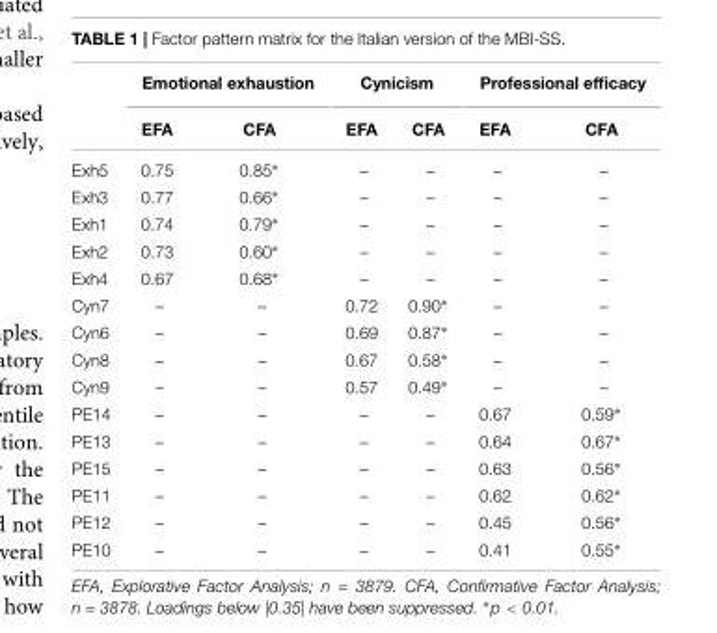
<table><thead><tr><td rowspan="2"></td><td colspan="2">Emotional exhaustion</td><td colspan="2">Cynicism</td><td colspan="2">Professional efficacy</td></tr><tr><td>EFA</td><td>CFA</td><td>EFA</td><td>CFA</td><td>EFA</td><td>CFA</td></tr></thead><tbody><tr><td>Exh5</td><td>0.75</td><td>0.85∗</td><td>–</td><td>–</td><td>–</td><td>–</td></tr><tr><td>Exh3</td><td>0.77</td><td>0.66∗</td><td>–</td><td>–</td><td>–</td><td>–</td></tr><tr><td>Exh1</td><td>0.74</td><td>0.79∗</td><td>–</td><td>–</td><td>–</td><td>–</td></tr><tr><td>Exh2</td><td>0.73</td><td>0.60∗</td><td>–</td><td>–</td><td>–</td><td>–</td></tr><tr><td>Exh4</td><td>0.67</td><td>0.68∗</td><td>–</td><td>–</td><td>–</td><td>–</td></tr><tr><td>Cyn7</td><td>–</td><td>–</td><td>0.72</td><td>0.90∗</td><td>–</td><td>–</td></tr><tr><td>Cyn6</td><td>–</td><td>–</td><td>0.69</td><td>0.87∗</td><td>–</td><td>–</td></tr><tr><td>Cyn8</td><td>–</td><td>–</td><td>0.67</td><td>0.58∗</td><td>–</td><td>–</td></tr><tr><td>Cyn9</td><td>–</td><td>–</td><td>0.57</td><td>0.49∗</td><td>–</td><td>–</td></tr><tr><td>PE14</td><td>–</td><td>–</td><td>–</td><td>–</td><td>0.67</td><td>0.59∗</td></tr><tr><td>PE13</td><td>–</td><td>–</td><td>–</td><td>–</td><td>0.64</td><td>0.67∗</td></tr><tr><td>PE15</td><td>–</td><td>–</td><td>–</td><td>–</td><td>0.63</td><td>0.56∗</td></tr><tr><td>PE11</td><td>–</td><td>–</td><td>–</td><td>–</td><td>0.62</td><td>0.62∗</td></tr><tr><td>PE12</td><td>–</td><td>–</td><td>–</td><td>–</td><td>0.45</td><td>0.56∗</td></tr><tr><td>PE10</td><td>–</td><td>–</td><td>–</td><td>–</td><td>0.41</td><td>0.55∗</td></tr></tbody></table>